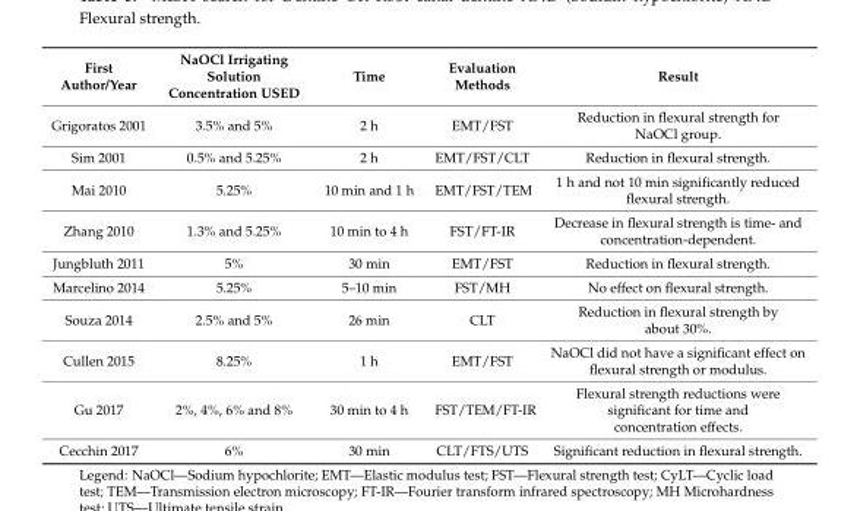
<table><thead><tr><td>First Author/Year</td><td>NaOCl Irrigating Solution Concentration USED</td><td>Time</td><td>Evaluation Methods</td><td>Result</td></tr></thead><tbody><tr><td>Grigoratos 2001</td><td>3.5% and 5%</td><td>2 h</td><td>EMT/FST</td><td>Reduction in flexural strength for NaOCl group.</td></tr><tr><td>Sim 2001</td><td>0.5% and 5.25%</td><td>2 h</td><td>EMT/FST/CLT</td><td>Reduction in flexural strength.</td></tr><tr><td>Mai 2010</td><td>5.25%</td><td>10 min and 1 h</td><td>EMT/FST/TEM</td><td>1 h and not 10 min significantly reduced flexural strength.</td></tr><tr><td>Zhang 2010</td><td>1.3% and 5.25%</td><td>10 min to 4 h</td><td>FST/FT-IR</td><td>Decrease in flexural strength is time- and concentration-dependent.</td></tr><tr><td>Jungbluth 2011</td><td>5%</td><td>30 min</td><td>EMT/FST</td><td>Reduction in flexural strength.</td></tr><tr><td>Marcelino 2014</td><td>5.25%</td><td>5–10 min</td><td>FST/MH</td><td>No effect on flexural strength.</td></tr><tr><td>Souza 2014</td><td>2.5% and 5%</td><td>26 min</td><td>CLT</td><td>Reduction in flexural strength by about 30%.</td></tr><tr><td>Cullen 2015</td><td>8.25%</td><td>1 h</td><td>EMT/FST</td><td>NaOCl did not have a significant effect on flexural strength or modulus.</td></tr><tr><td>Gu 2017</td><td>2%, 4%, 6% and 8%</td><td>30 min to 4 h</td><td>FST/TEM/FT-IR</td><td>Flexural strength reductions were significant for time and concentration effects.</td></tr><tr><td>Cecchin 2017</td><td>6%</td><td>30 min</td><td>CLT/FTS/UTS</td><td>Significant reduction in flexural strength.</td></tr></tbody></table>